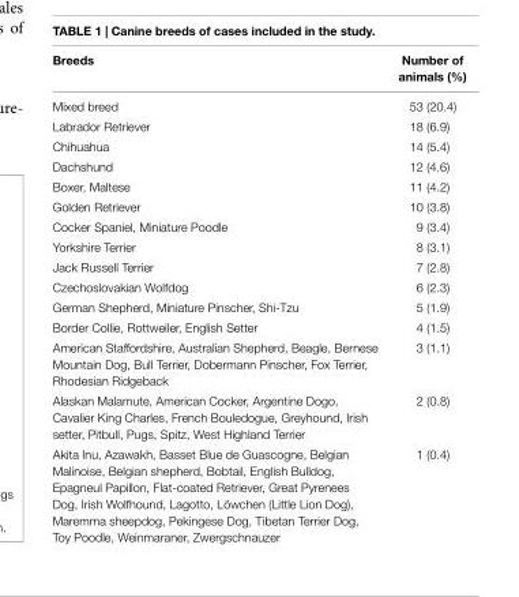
<table><thead><tr><td>Breeds</td><td>number of animals (%)</td></tr></thead><tbody><tr><td>Mixed breed</td><td>53 (20.4)</td></tr><tr><td>Labrador Retriever</td><td>18 (6.9)</td></tr><tr><td>Chihuahua</td><td>14 (5.4)</td></tr><tr><td>Dachshund</td><td>12 (4.6)</td></tr><tr><td>Boxer, Maltese</td><td>11 (4.2)</td></tr><tr><td>Golden Retriever</td><td>10 (3.8)</td></tr><tr><td>Cocker Spaniel, Miniature Poodle</td><td>9 (3.4)</td></tr><tr><td>Yorkshire Terrier</td><td>8 (3.1)</td></tr><tr><td>Jack Russell Terrier</td><td>7 (2.8)</td></tr><tr><td>Czechoslovakian Wolfdog</td><td>6 (2.3)</td></tr><tr><td>German Shepherd, Miniature Pinscher, Shi-Tzu</td><td>5 (1.9)</td></tr><tr><td>Border Collie, Rottweiler, English Setter</td><td>4 (1.5)</td></tr><tr><td>American Staffordshire, Australian Shepherd, Beagle, Bernese Mountain Dog, Bull Terrier, Dobermann Pinscher, Fox Terrier, Rhodesian Ridgeback</td><td>3 (1.1)</td></tr><tr><td>Alaskan Malamute, American Cocker, Argentine Dogo, Cavalier King Charles, French Bouledogue, Greyhound, Irish setter, Pitbull, Pugs, Spitz, West Highland Terrier</td><td>2 (0.8)</td></tr><tr><td>Akita Inu, Azawakh, Basset Blue de Guascogne, Belgian Malinoise, Belgian shepherd, Bobtail, English Bulldog, Epagneul Papillon, Flat-coated Retriever, Great Pyrenees Dog, Irish Wolfhound, Lagotto, Löwchen (Little Lion Dog), Maremma sheepdog, Pekingese Dog, Tibetan Terrier Dog, Toy Poodle, Weinmaraner, Zwergschnauzer</td><td>1 (0.4)</td></tr></tbody></table>